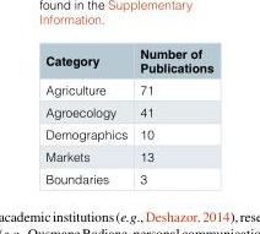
<table><thead><tr><td>Category</td><td>Number of Publications</td></tr></thead><tbody><tr><td>Agriculture</td><td>71</td></tr><tr><td>Agroecology</td><td>41</td></tr><tr><td>Demographics</td><td>10</td></tr><tr><td>Markets</td><td>13</td></tr><tr><td>Boundaries</td><td>3</td></tr></tbody></table>